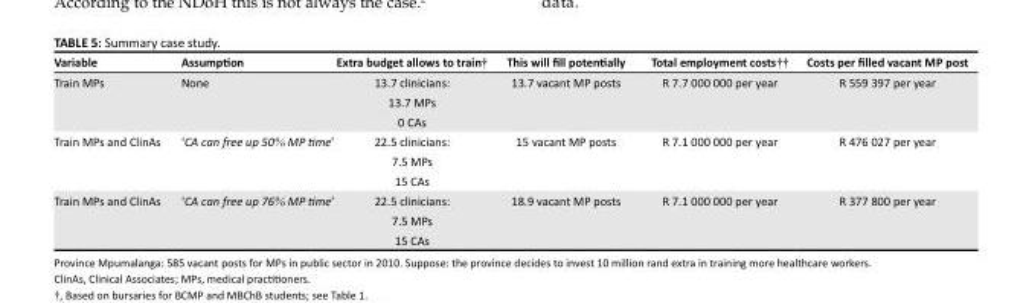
<table><thead><tr><td>Variable</td><td>Assumption</td><td>Extra budget allows to train†</td><td>This will fill potentially</td><td>Total employment costs††</td><td>Costs per filled vacant MP post</td></tr></thead><tbody><tr><td rowspan="3">Train MPs</td><td>None</td><td>13.7 clinicians:</td><td>13.7 vacant MP posts</td><td>R 7.7 000 000 per year</td><td>R 559 397 per year</td></tr><tr><td></td><td>13.7 MPs</td><td></td><td></td><td></td></tr><tr><td></td><td>0 CAs</td><td></td><td></td><td></td></tr><tr><td rowspan="3">Train MPs and ClinAs</td><td>‘CA can free up 50% MP time’</td><td>22.5 clinicians:</td><td>15 vacant MP posts</td><td>R 7.1 000 000 per year</td><td>R 476 027 per year</td></tr><tr><td></td><td>7.5 MPs</td><td></td><td></td><td></td></tr><tr><td></td><td>15 CAs</td><td></td><td></td><td></td></tr><tr><td rowspan="3">Train MPs and ClinAs</td><td>‘CA can free up 76% MP time’</td><td>22.5 clinicians:</td><td>18.9 vacant MP posts</td><td>R 7.1 000 000 per year</td><td>R 377 800 per year</td></tr><tr><td></td><td>7.5 MPs</td><td></td><td></td><td></td></tr><tr><td></td><td>15 CAs</td><td></td><td></td><td></td></tr></tbody></table>